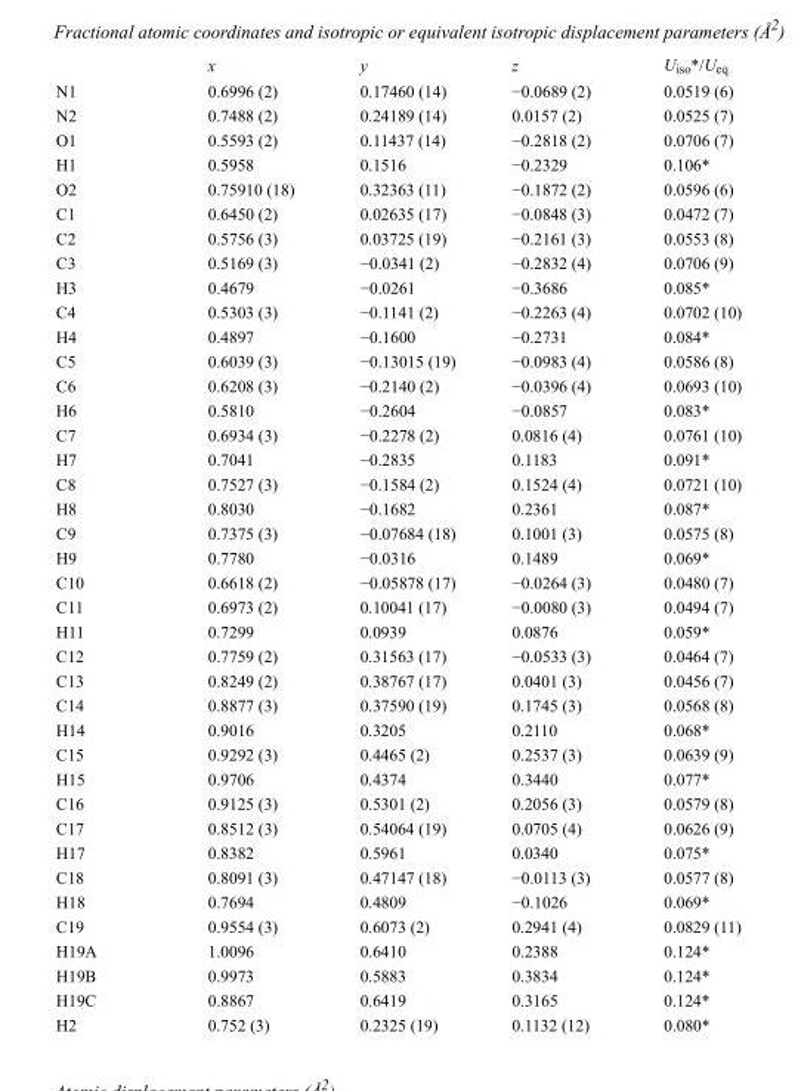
<table><thead><tr><td></td><td>x</td><td>y</td><td>z</td><td>U<sub>iso</sub>*/U<sub>eq</sub></td></tr></thead><tbody><tr><td>N1</td><td>0.6996 (2)</td><td>0.17460 (14)</td><td>−0.0689 (2)</td><td>0.0519 (6)</td></tr><tr><td>N2</td><td>0.7488 (2)</td><td>0.24189 (14)</td><td>0.0157 (2)</td><td>0.0525 (7)</td></tr><tr><td>O1</td><td>0.5593 (2)</td><td>0.11437 (14)</td><td>−0.2818 (2)</td><td>0.0706 (7)</td></tr><tr><td>H1</td><td>0.5958</td><td>0.1516</td><td>−0.2329</td><td>0.106*</td></tr><tr><td>O2</td><td>0.75910 (18)</td><td>0.32363 (11)</td><td>−0.1872 (2)</td><td>0.0596 (6)</td></tr><tr><td>C1</td><td>0.6450 (2)</td><td>0.02635 (17)</td><td>−0.0848 (3)</td><td>0.0472 (7)</td></tr><tr><td>C2</td><td>0.5756 (3)</td><td>0.03725 (19)</td><td>−0.2161 (3)</td><td>0.0553 (8)</td></tr><tr><td>C3</td><td>0.5169 (3)</td><td>−0.0341 (2)</td><td>−0.2832 (4)</td><td>0.0706 (9)</td></tr><tr><td>H3</td><td>0.4679</td><td>−0.0261</td><td>−0.3686</td><td>0.085*</td></tr><tr><td>C4</td><td>0.5303 (3)</td><td>−0.1141 (2)</td><td>−0.2263 (4)</td><td>0.0702 (10)</td></tr><tr><td>H4</td><td>0.4897</td><td>−0.1600</td><td>−0.2731</td><td>0.084*</td></tr><tr><td>C5</td><td>0.6039 (3)</td><td>−0.13015 (19)</td><td>−0.0983 (4)</td><td>0.0586 (8)</td></tr><tr><td>C6</td><td>0.6208 (3)</td><td>−0.2140 (2)</td><td>−0.0396 (4)</td><td>0.0693 (10)</td></tr><tr><td>H6</td><td>0.5810</td><td>−0.2604</td><td>−0.0857</td><td>0.083*</td></tr><tr><td>C7</td><td>0.6934 (3)</td><td>−0.2278 (2)</td><td>0.0816 (4)</td><td>0.0761 (10)</td></tr><tr><td>H7</td><td>0.7041</td><td>−0.2835</td><td>0.1183</td><td>0.091*</td></tr><tr><td>C8</td><td>0.7527 (3)</td><td>−0.1584 (2)</td><td>0.1524 (4)</td><td>0.0721 (10)</td></tr><tr><td>H8</td><td>0.8030</td><td>−0.1682</td><td>0.2361</td><td>0.087*</td></tr><tr><td>C9</td><td>0.7375 (3)</td><td>−0.07684 (18)</td><td>0.1001 (3)</td><td>0.0575 (8)</td></tr><tr><td>H9</td><td>0.7780</td><td>−0.0316</td><td>0.1489</td><td>0.069*</td></tr><tr><td>C10</td><td>0.6618 (2)</td><td>−0.05878 (17)</td><td>−0.0264 (3)</td><td>0.0480 (7)</td></tr><tr><td>C11</td><td>0.6973 (2)</td><td>0.10041 (17)</td><td>−0.0080 (3)</td><td>0.0494 (7)</td></tr><tr><td>H11</td><td>0.7299</td><td>0.0939</td><td>0.0876</td><td>0.059*</td></tr><tr><td>C12</td><td>0.7759 (2)</td><td>0.31563 (17)</td><td>−0.0533 (3)</td><td>0.0464 (7)</td></tr><tr><td>C13</td><td>0.8249 (2)</td><td>0.38767 (17)</td><td>0.0401 (3)</td><td>0.0456 (7)</td></tr><tr><td>C14</td><td>0.8877 (3)</td><td>0.37590 (19)</td><td>0.1745 (3)</td><td>0.0568 (8)</td></tr><tr><td>H14</td><td>0.9016</td><td>0.3205</td><td>0.2110</td><td>0.068*</td></tr><tr><td>C15</td><td>0.9292 (3)</td><td>0.4465 (2)</td><td>0.2537 (3)</td><td>0.0639 (9)</td></tr><tr><td>H15</td><td>0.9706</td><td>0.4374</td><td>0.3440</td><td>0.077*</td></tr><tr><td>C16</td><td>0.9125 (3)</td><td>0.5301 (2)</td><td>0.2056 (3)</td><td>0.0579 (8)</td></tr><tr><td>C17</td><td>0.8512 (3)</td><td>0.54064 (19)</td><td>0.0705 (4)</td><td>0.0626 (9)</td></tr><tr><td>H17</td><td>0.8382</td><td>0.5961</td><td>0.0340</td><td>0.075*</td></tr><tr><td>C18</td><td>0.8091 (3)</td><td>0.47147 (18)</td><td>−0.0113 (3)</td><td>0.0577 (8)</td></tr><tr><td>H18</td><td>0.7694</td><td>0.4809</td><td>−0.1026</td><td>0.069*</td></tr><tr><td>C19</td><td>0.9554 (3)</td><td>0.6073 (2)</td><td>0.2941 (4)</td><td>0.0829 (11)</td></tr><tr><td>H19A</td><td>1.0096</td><td>0.6410</td><td>0.2388</td><td>0.124*</td></tr><tr><td>H19B</td><td>0.9973</td><td>0.5883</td><td>0.3834</td><td>0.124*</td></tr><tr><td>H19C</td><td>0.8867</td><td>0.6419</td><td>0.3165</td><td>0.124*</td></tr><tr><td>H2</td><td>0.752 (3)</td><td>0.2325 (19)</td><td>0.1132 (12)</td><td>0.080*</td></tr></tbody></table>